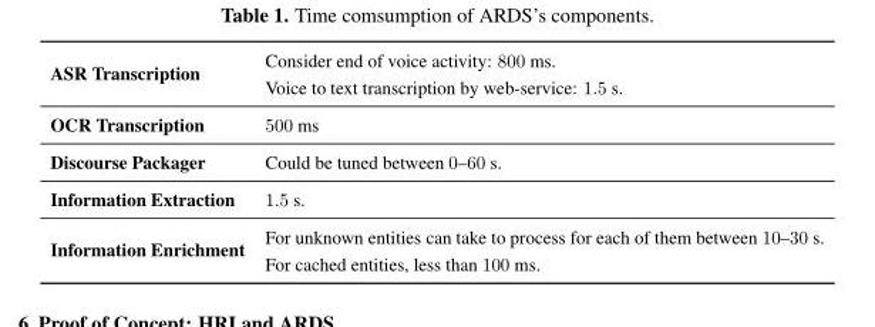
<table><tbody><tr><td rowspan="2">ASR Transcription</td><td>Consider end of voice activity: 800 ms.</td></tr><tr><td>Voice to text transcription by web-service: 1.5 s.</td></tr><tr><td>OCR Transcription</td><td>500 ms</td></tr><tr><td>Discourse Packager</td><td>Could be tuned between 0–60 s.</td></tr><tr><td>Information Extraction</td><td>1.5 s.</td></tr><tr><td rowspan="2">Information Enrichment</td><td>For unknown entities can take to process for each of them between 10–30 s.</td></tr><tr><td>For cached entities, less than 100 ms.</td></tr></tbody></table>